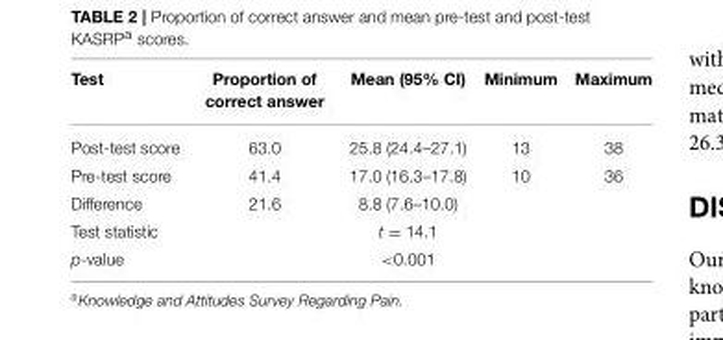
<table><thead><tr><td>Test</td><td>Proportion of correct answer</td><td>Mean (95% CI)</td><td>Minimum</td><td>Maximum</td></tr></thead><tbody><tr><td>Post-test score</td><td>63.0</td><td>25.8 (24.4–27.1)</td><td>13</td><td>38</td></tr><tr><td>Pre-test score</td><td>41.4</td><td>17.0 (16.3–17.8)</td><td>10</td><td>36</td></tr><tr><td>Difference</td><td>21.6</td><td>8.8 (7.6–10.0)</td><td></td><td></td></tr><tr><td>Test statistic</td><td></td><td>t = 14.1</td><td></td><td></td></tr><tr><td>p-value</td><td></td><td>&lt;0.001</td><td></td><td></td></tr></tbody></table>